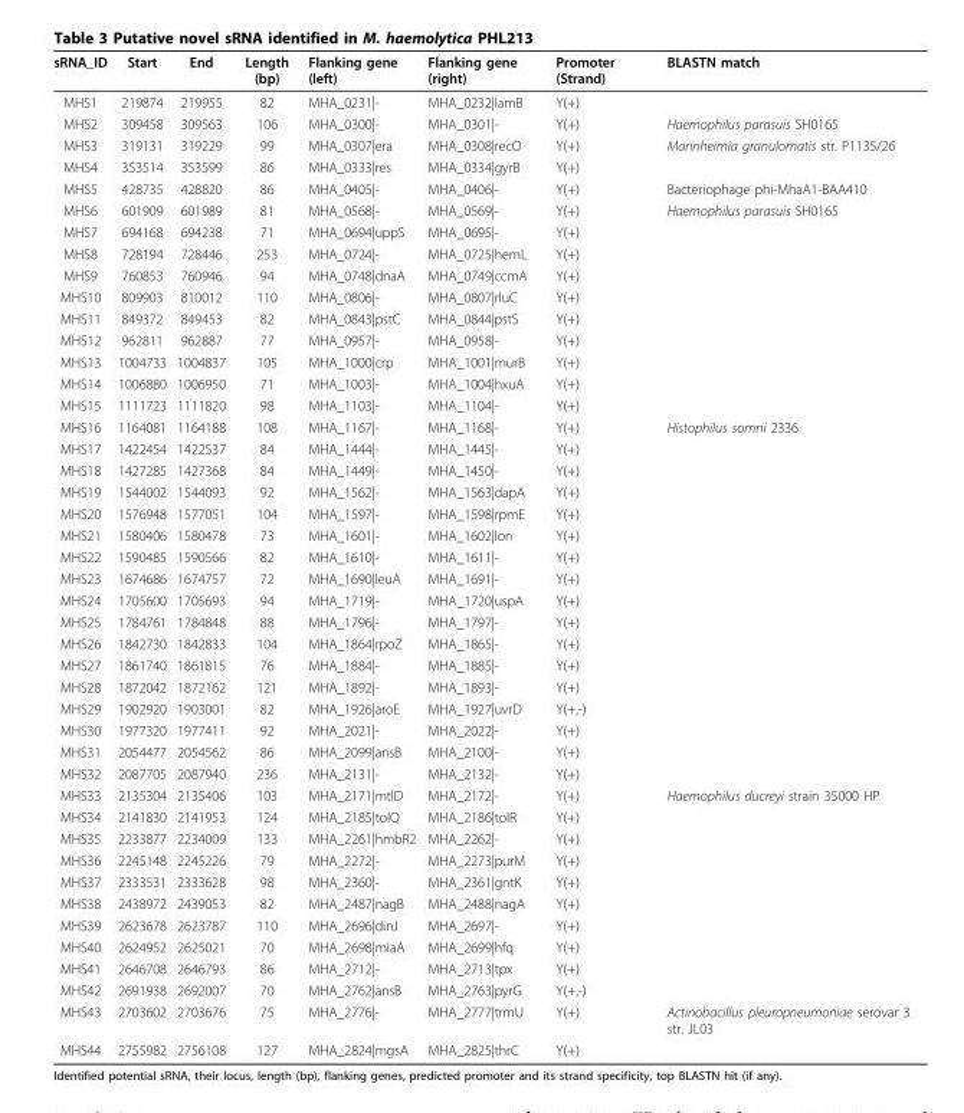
<table><thead><tr><td>sRNA_ID</td><td>Start</td><td>End</td><td>Length (bp)</td><td>Flanking gene (left)</td><td>Flanking gene (right)</td><td>Promoter (Strand)</td><td>BLASTN match</td></tr></thead><tbody><tr><td>MHS1</td><td>219874</td><td>219955</td><td>82</td><td>MHA_0231|-</td><td>MHA_0232|lamB</td><td>Y(+)</td><td></td></tr><tr><td>MHS2</td><td>309458</td><td>309563</td><td>106</td><td>MHA_0300|-</td><td>MHA_0301|-</td><td>Y(+)</td><td>Haemophilus parasuis SH0165</td></tr><tr><td>MHS3</td><td>319131</td><td>319229</td><td>99</td><td>MHA_0307|era</td><td>MHA_0308|recO</td><td>Y(+)</td><td>Mannheimia granulomatis str. P1135/26</td></tr><tr><td>MHS4</td><td>353514</td><td>353599</td><td>86</td><td>MHA_0333|res</td><td>MHA_0334|gyrB</td><td>Y(+)</td><td></td></tr><tr><td>MHS5</td><td>428735</td><td>428820</td><td>86</td><td>MHA_0405|-</td><td>MHA_0406|-</td><td>Y(+)</td><td>Bacteriophage phi-MhaA1-BAA410</td></tr><tr><td>MHS6</td><td>601909</td><td>601989</td><td>81</td><td>MHA_0568|-</td><td>MHA_0569|-</td><td>Y(+)</td><td>Haemophilus parasuis SH0165</td></tr><tr><td>MHS7</td><td>694168</td><td>694238</td><td>71</td><td>MHA_0694|uppS</td><td>MHA_0695|-</td><td>Y(+)</td><td></td></tr><tr><td>MHS8</td><td>728194</td><td>728446</td><td>253</td><td>MHA_0724|-</td><td>MHA_0725|hemL</td><td>Y(+)</td><td></td></tr><tr><td>MHS9</td><td>760853</td><td>760946</td><td>94</td><td>MHA_0748|dnaA</td><td>MHA_0749|ccmA</td><td>Y(+)</td><td></td></tr><tr><td>MHS10</td><td>809903</td><td>810012</td><td>110</td><td>MHA_0806|-</td><td>MHA_0807|rluC</td><td>Y(+)</td><td></td></tr><tr><td>MHS11</td><td>849372</td><td>849453</td><td>82</td><td>MHA_0843|pstC</td><td>MHA_0844|pstS</td><td>Y(+)</td><td></td></tr><tr><td>MHS12</td><td>962811</td><td>962887</td><td>77</td><td>MHA_0957|-</td><td>MHA_0958|-</td><td>Y(+)</td><td></td></tr><tr><td>MHS13</td><td>1004733</td><td>1004837</td><td>105</td><td>MHA_1000|crp</td><td>MHA_1001|murB</td><td>Y(+)</td><td></td></tr><tr><td>MHS14</td><td>1006880</td><td>1006950</td><td>71</td><td>MHA_1003|-</td><td>MHA_1004|hxuA</td><td>Y(+)</td><td></td></tr><tr><td>MHS15</td><td>1111723</td><td>1111820</td><td>98</td><td>MHA_1103|-</td><td>MHA_1104|-</td><td>Y(+)</td><td></td></tr><tr><td>MHS16</td><td>1164081</td><td>1164188</td><td>108</td><td>MHA_1167|-</td><td>MHA_1168|-</td><td>Y(+)</td><td>Histophilus somni 2336</td></tr><tr><td>MHS17</td><td>1422454</td><td>1422537</td><td>84</td><td>MHA_1444|-</td><td>MHA_1445|-</td><td>Y(+)</td><td></td></tr><tr><td>MHS18</td><td>1427285</td><td>1427368</td><td>84</td><td>MHA_1449|-</td><td>MHA_1450|-</td><td>Y(+)</td><td></td></tr><tr><td>MHS19</td><td>1544002</td><td>1544093</td><td>92</td><td>MHA_1562|-</td><td>MHA_1563|dapA</td><td>Y(+)</td><td></td></tr><tr><td>MHS20</td><td>1576948</td><td>1577051</td><td>104</td><td>MHA_1597|-</td><td>MHA_1598|rpmE</td><td>Y(+)</td><td></td></tr><tr><td>MHS21</td><td>1580406</td><td>1580478</td><td>73</td><td>MHA_1601|-</td><td>MHA_1602|lon</td><td>Y(+)</td><td></td></tr><tr><td>MHS22</td><td>1590485</td><td>1590566</td><td>82</td><td>MHA_1610|-</td><td>MHA_1611|-</td><td>Y(+)</td><td></td></tr><tr><td>MHS23</td><td>1674686</td><td>1674757</td><td>72</td><td>MHA_1690|leuA</td><td>MHA_1691|-</td><td>Y(+)</td><td></td></tr><tr><td>MHS24</td><td>1705600</td><td>1705693</td><td>94</td><td>MHA_1719|-</td><td>MHA_1720|uspA</td><td>Y(+)</td><td></td></tr><tr><td>MHS25</td><td>1784761</td><td>1784848</td><td>88</td><td>MHA_1796|-</td><td>MHA_1797|-</td><td>Y(+)</td><td></td></tr><tr><td>MHS26</td><td>1842730</td><td>1842833</td><td>104</td><td>MHA_1864|rpoZ</td><td>MHA_1865|-</td><td>Y(+)</td><td></td></tr><tr><td>MHS27</td><td>1861740</td><td>1861815</td><td>76</td><td>MHA_1884|-</td><td>MHA_1885|-</td><td>Y(+)</td><td></td></tr><tr><td>MHS28</td><td>1872042</td><td>1872162</td><td>121</td><td>MHA_1892|-</td><td>MHA_1893|-</td><td>Y(+)</td><td></td></tr><tr><td>MHS29</td><td>1902920</td><td>1903001</td><td>82</td><td>MHA_1926|aroE</td><td>MHA_1927|uvrD</td><td>Y(+,-)</td><td></td></tr><tr><td>MHS30</td><td>1977320</td><td>1977411</td><td>92</td><td>MHA_2021|-</td><td>MHA_2022|-</td><td>Y(+)</td><td></td></tr><tr><td>MHS31</td><td>2054477</td><td>2054562</td><td>86</td><td>MHA_2099|ansB</td><td>MHA_2100|-</td><td>Y(+)</td><td></td></tr><tr><td>MHS32</td><td>2087705</td><td>2087940</td><td>236</td><td>MHA_2131|-</td><td>MHA_2132|-</td><td>Y(+)</td><td></td></tr><tr><td>MHS33</td><td>2135304</td><td>2135406</td><td>103</td><td>MHA_2171|mtlD</td><td>MHA_2172|-</td><td>Y(+)</td><td>Haemophilus ducreyi strain 35000 HP</td></tr><tr><td>MHS34</td><td>2141830</td><td>2141953</td><td>124</td><td>MHA_2185|tolQ</td><td>MHA_2186|tolR</td><td>Y(+)</td><td></td></tr><tr><td>MHS35</td><td>2233877</td><td>2234009</td><td>133</td><td>MHA_2261|hmbR2</td><td>MHA_2262|-</td><td>Y(+)</td><td></td></tr><tr><td>MHS36</td><td>2245148</td><td>2245226</td><td>79</td><td>MHA_2272|-</td><td>MHA_2273|purM</td><td>Y(+)</td><td></td></tr><tr><td>MHS37</td><td>2333531</td><td>2333628</td><td>98</td><td>MHA_2360|-</td><td>MHA_2361|gntK</td><td>Y(+)</td><td></td></tr><tr><td>MHS38</td><td>2438972</td><td>2439053</td><td>82</td><td>MHA_2487|nagB</td><td>MHA_2488|nagA</td><td>Y(+)</td><td></td></tr><tr><td>MHS39</td><td>2623678</td><td>2623787</td><td>110</td><td>MHA_2696|dinJ</td><td>MHA_2697|-</td><td>Y(+)</td><td></td></tr><tr><td>MHS40</td><td>2624952</td><td>2625021</td><td>70</td><td>MHA_2698|miaA</td><td>MHA_2699|hfq</td><td>Y(+)</td><td></td></tr><tr><td>MHS41</td><td>2646708</td><td>2646793</td><td>86</td><td>MHA_2712|-</td><td>MHA_2713|tpx</td><td>Y(+)</td><td></td></tr><tr><td>MHS42</td><td>2691938</td><td>2692007</td><td>70</td><td>MHA_2762|ansB</td><td>MHA_2763|pyrG</td><td>Y(+,-)</td><td></td></tr><tr><td>MHS43</td><td>2703602</td><td>2703676</td><td>75</td><td>MHA_2776|-</td><td>MHA_2777|trmU</td><td>Y(+)</td><td>Actinobacillus pleuropneumoniae serovar 3 str. JL03</td></tr><tr><td>MHS44</td><td>2755982</td><td>2756108</td><td>127</td><td>MHA_2824|mgsA</td><td>MHA_2825|thrC</td><td>Y(+)</td><td></td></tr></tbody></table>